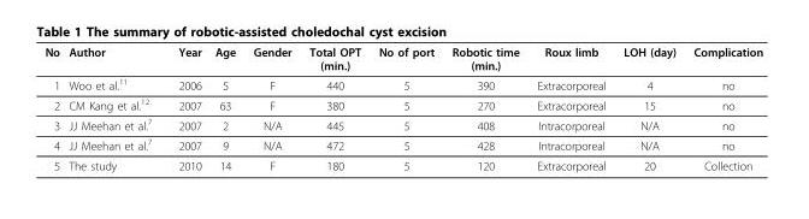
<table><thead><tr><td>No</td><td>Author</td><td>Year</td><td>Age</td><td>Gender</td><td>Total OPT (min.)</td><td>No of port</td><td>Robotic time (min.)</td><td>Roux limb</td><td>LOH (day)</td><td>Complication</td></tr></thead><tbody><tr><td>1</td><td>Woo et al.<sup>11</sup></td><td>2006</td><td>5</td><td>F</td><td>440</td><td>5</td><td>390</td><td>Extracorporeal</td><td>4</td><td>no</td></tr><tr><td>2</td><td>CM Kang et al.<sup>12</sup></td><td>2007</td><td>63</td><td>F</td><td>380</td><td>5</td><td>270</td><td>Extracorporeal</td><td>15</td><td>no</td></tr><tr><td>3</td><td>JJ Meehan et al.<sup>7</sup></td><td>2007</td><td>2</td><td>N/A</td><td>445</td><td>5</td><td>408</td><td>Intracorporeal</td><td>N/A</td><td>no</td></tr><tr><td>4</td><td>JJ Meehan et al.<sup>7</sup></td><td>2007</td><td>9</td><td>N/A</td><td>472</td><td>5</td><td>428</td><td>Intracorporeal</td><td>N/A</td><td>no</td></tr><tr><td>5</td><td>The study</td><td>2010</td><td>14</td><td>F</td><td>180</td><td>5</td><td>120</td><td>Extracorporeal</td><td>20</td><td>Collection</td></tr></tbody></table>